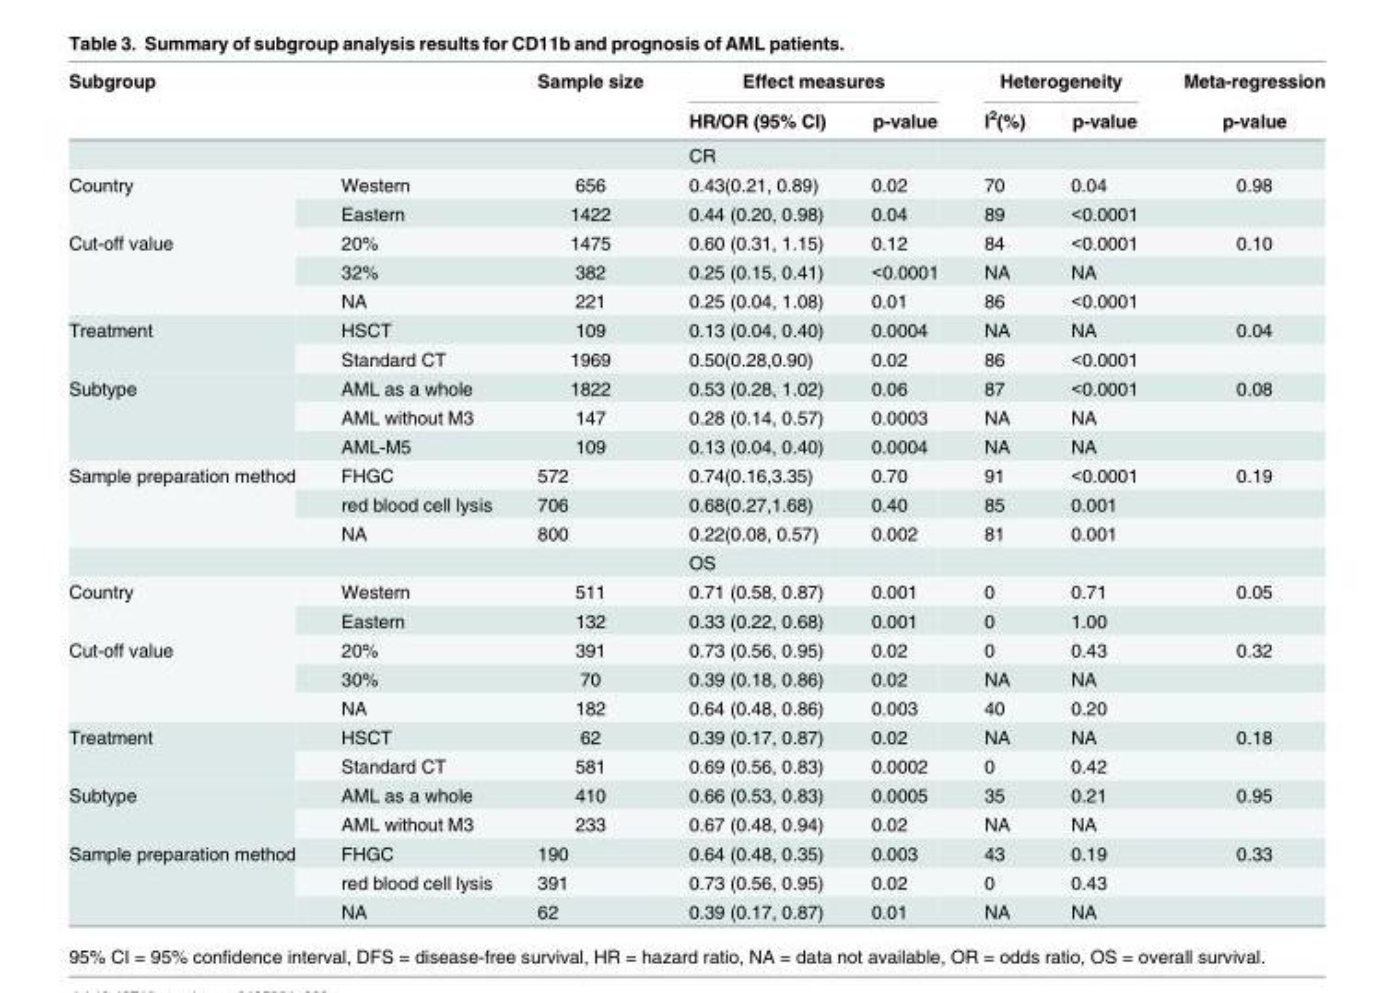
<table><thead><tr><td rowspan="2">Subgroup</td><td rowspan="2"></td><td rowspan="2">Sample size</td><td colspan="2">Effect measures</td><td colspan="2">Heterogeneity</td><td rowspan="2">Meta-regression p-value</td></tr><tr><td>HR/OR (95% CI)</td><td>p-value</td><td>I<sup>2</sup>(%)</td><td>p-value</td></tr></thead><tbody><tr><td></td><td></td><td></td><td>CR</td><td></td><td></td><td></td><td></td></tr><tr><td rowspan="2">Country</td><td>Western</td><td>656</td><td>0.43(0.21, 0.89)</td><td>0.02</td><td>70</td><td>0.04</td><td>0.98</td></tr><tr><td>Eastern</td><td>1422</td><td>0.44 (0.20, 0.98)</td><td>0.04</td><td>89</td><td>&lt;0.0001</td><td></td></tr><tr><td rowspan="3">Cut-off value</td><td>20%</td><td>1475</td><td>0.60 (0.31, 1.15)</td><td>0.12</td><td>84</td><td>&lt;0.0001</td><td>0.10</td></tr><tr><td>32%</td><td>382</td><td>0.25 (0.15, 0.41)</td><td>&lt;0.0001</td><td>NA</td><td>NA</td><td></td></tr><tr><td>NA</td><td>221</td><td>0.25 (0.04, 1.08)</td><td>0.01</td><td>86</td><td>&lt;0.0001</td><td></td></tr><tr><td rowspan="2">Treatment</td><td>HSCT</td><td>109</td><td>0.13 (0.04, 0.40)</td><td>0.0004</td><td>NA</td><td>NA</td><td>0.04</td></tr><tr><td>Standard CT</td><td>1969</td><td>0.50(0.28,0.90)</td><td>0.02</td><td>86</td><td>&lt;0.0001</td><td></td></tr><tr><td rowspan="3">Subtype</td><td>AML as a whole</td><td>1822</td><td>0.53 (0.28, 1.02)</td><td>0.06</td><td>87</td><td>&lt;0.0001</td><td>0.08</td></tr><tr><td>AML without M3</td><td>147</td><td>0.28 (0.14, 0.57)</td><td>0.0003</td><td>NA</td><td>NA</td><td></td></tr><tr><td>AML-M5</td><td>109</td><td>0.13 (0.04, 0.40)</td><td>0.0004</td><td>NA</td><td>NA</td><td></td></tr><tr><td rowspan="4">Sample preparation method</td><td>FHGC</td><td>572</td><td>0.74(0.16,3.35)</td><td>0.70</td><td>91</td><td>&lt;0.0001</td><td>0.19</td></tr><tr><td>red blood cell lysis</td><td>706</td><td>0.68(0.27,1.68)</td><td>0.40</td><td>85</td><td>0.001</td><td></td></tr><tr><td>NA</td><td>800</td><td>0.22(0.08, 0.57)</td><td>0.002</td><td>81</td><td>0.001</td><td></td></tr><tr><td></td><td></td><td>OS</td><td></td><td></td><td></td><td></td></tr><tr><td rowspan="2">Country</td><td>Western</td><td>511</td><td>0.71 (0.58, 0.87)</td><td>0.001</td><td>0</td><td>0.71</td><td>0.05</td></tr><tr><td>Eastern</td><td>132</td><td>0.33 (0.22, 0.68)</td><td>0.001</td><td>0</td><td>1.00</td><td></td></tr><tr><td rowspan="3">Cut-off value</td><td>20%</td><td>391</td><td>0.73 (0.56, 0.95)</td><td>0.02</td><td>0</td><td>0.43</td><td>0.32</td></tr><tr><td>30%</td><td>70</td><td>0.39 (0.18, 0.86)</td><td>0.02</td><td>NA</td><td>NA</td><td></td></tr><tr><td>NA</td><td>182</td><td>0.64 (0.48, 0.86)</td><td>0.003</td><td>40</td><td>0.20</td><td></td></tr><tr><td rowspan="2">Treatment</td><td>HSCT</td><td>62</td><td>0.39 (0.17, 0.87)</td><td>0.02</td><td>NA</td><td>NA</td><td>0.18</td></tr><tr><td>Standard CT</td><td>581</td><td>0.69 (0.56, 0.83)</td><td>0.0002</td><td>0</td><td>0.42</td><td></td></tr><tr><td rowspan="2">Subtype</td><td>AML as a whole</td><td>410</td><td>0.66 (0.53, 0.83)</td><td>0.0005</td><td>35</td><td>0.21</td><td>0.95</td></tr><tr><td>AML without M3</td><td>233</td><td>0.67 (0.48, 0.94)</td><td>0.02</td><td>NA</td><td>NA</td><td></td></tr><tr><td rowspan="3">Sample preparation method</td><td>FHGC</td><td>190</td><td>0.64 (0.48, 0.35)</td><td>0.003</td><td>43</td><td>0.19</td><td>0.33</td></tr><tr><td>red blood cell lysis</td><td>391</td><td>0.73 (0.56, 0.95)</td><td>0.02</td><td>0</td><td>0.43</td><td></td></tr><tr><td>NA</td><td>62</td><td>0.39 (0.17, 0.87)</td><td>0.01</td><td>NA</td><td>NA</td><td></td></tr></tbody></table>